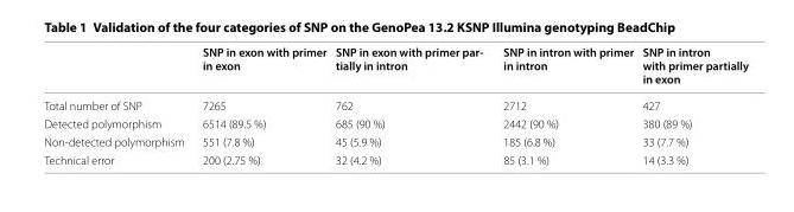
<table><thead><tr><td></td><td>SNP in exon with primer in exon</td><td>SNP in exon with primer par‑ tially in intron</td><td>SNP in intron with primer in intron</td><td>SNP in intron with primer partially in exon</td></tr></thead><tbody><tr><td>Total number of SNP</td><td>7265</td><td>762</td><td>2712</td><td>427</td></tr><tr><td>Detected polymorphism</td><td>6514 (89.5 %)</td><td>685 (90 %)</td><td>2442 (90 %)</td><td>380 (89 %)</td></tr><tr><td>Non‑detected polymorphism</td><td>551 (7.8 %)</td><td>45 (5.9 %)</td><td>185 (6.8 %)</td><td>33 (7.7 %)</td></tr><tr><td>Technical error</td><td>200 (2.75 %)</td><td>32 (4.2 %)</td><td>85 (3.1 %)</td><td>14 (3.3 %)</td></tr></tbody></table>